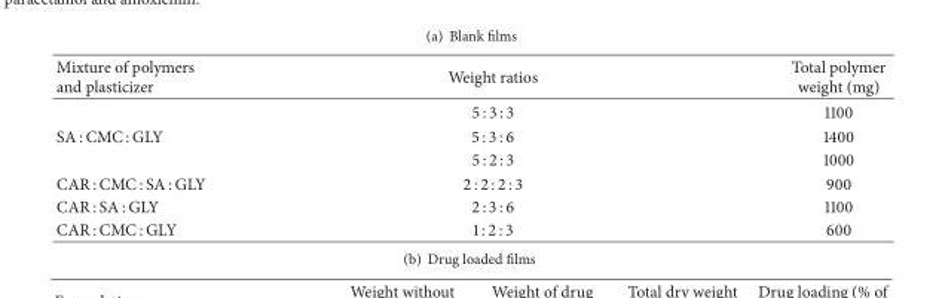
<table><thead><tr><td>Mixture of polymers and plasticizer</td><td>Weight ratios</td><td>Total polymer weight (mg)</td></tr></thead><tbody><tr><td></td><td>5 : 3 : 3</td><td>1100</td></tr><tr><td rowspan="2">SA : CMC : GLY</td><td>5 : 3 : 6</td><td>1400</td></tr><tr><td>5 : 2 : 3</td><td>1000</td></tr><tr><td>CAR : CMC : SA : GLY</td><td>2 : 2 : 2 : 3</td><td>900</td></tr><tr><td>CAR : SA : GLY</td><td>2 : 3 : 6</td><td>1100</td></tr><tr><td>CAR : CMC : GLY</td><td>1 : 2 : 3</td><td>600</td></tr></tbody></table>